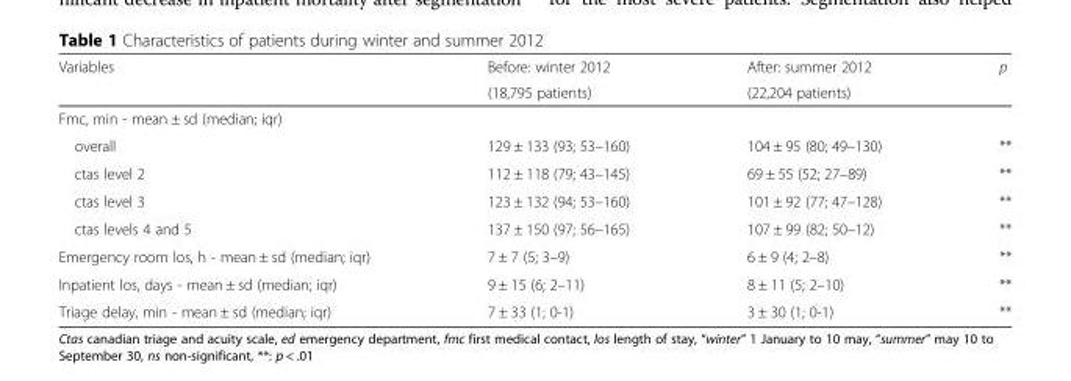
<table><thead><tr><td rowspan="2">Variables</td><td rowspan="2">Before: winter 2012 (18,795 patients)</td><td rowspan="2">After: summer 2012 (22,204 patients)</td><td rowspan="2">p</td></tr><tr></tr></thead><tbody><tr><td colspan="4">Fmc, min - mean ± sd (median; iqr)</td></tr><tr><td>overall</td><td>129 ± 133 (93; 53–160)</td><td>104 ± 95 (80; 49–130)</td><td>**</td></tr><tr><td>ctas level 2</td><td>112 ± 118 (79; 43–145)</td><td>69 ± 55 (52; 27–89)</td><td>**</td></tr><tr><td>ctas level 3</td><td>123 ± 132 (94; 53–160)</td><td>101 ± 92 (77; 47–128)</td><td>**</td></tr><tr><td>ctas levels 4 and 5</td><td>137 ± 150 (97; 56–165)</td><td>107 ± 99 (82; 50–12)</td><td>**</td></tr><tr><td>Emergency room los, h - mean ± sd (median; iqr)</td><td>7 ± 7 (5; 3–9)</td><td>6 ± 9 (4; 2–8)</td><td>**</td></tr><tr><td>Inpatient los, days - mean ± sd (median; iqr)</td><td>9 ± 15 (6; 2–11)</td><td>8 ± 11 (5; 2–10)</td><td>**</td></tr><tr><td>Triage delay, min - mean ± sd (median; iqr)</td><td>7 ± 33 (1; 0-1)</td><td>3 ± 30 (1; 0-1)</td><td>**</td></tr></tbody></table>